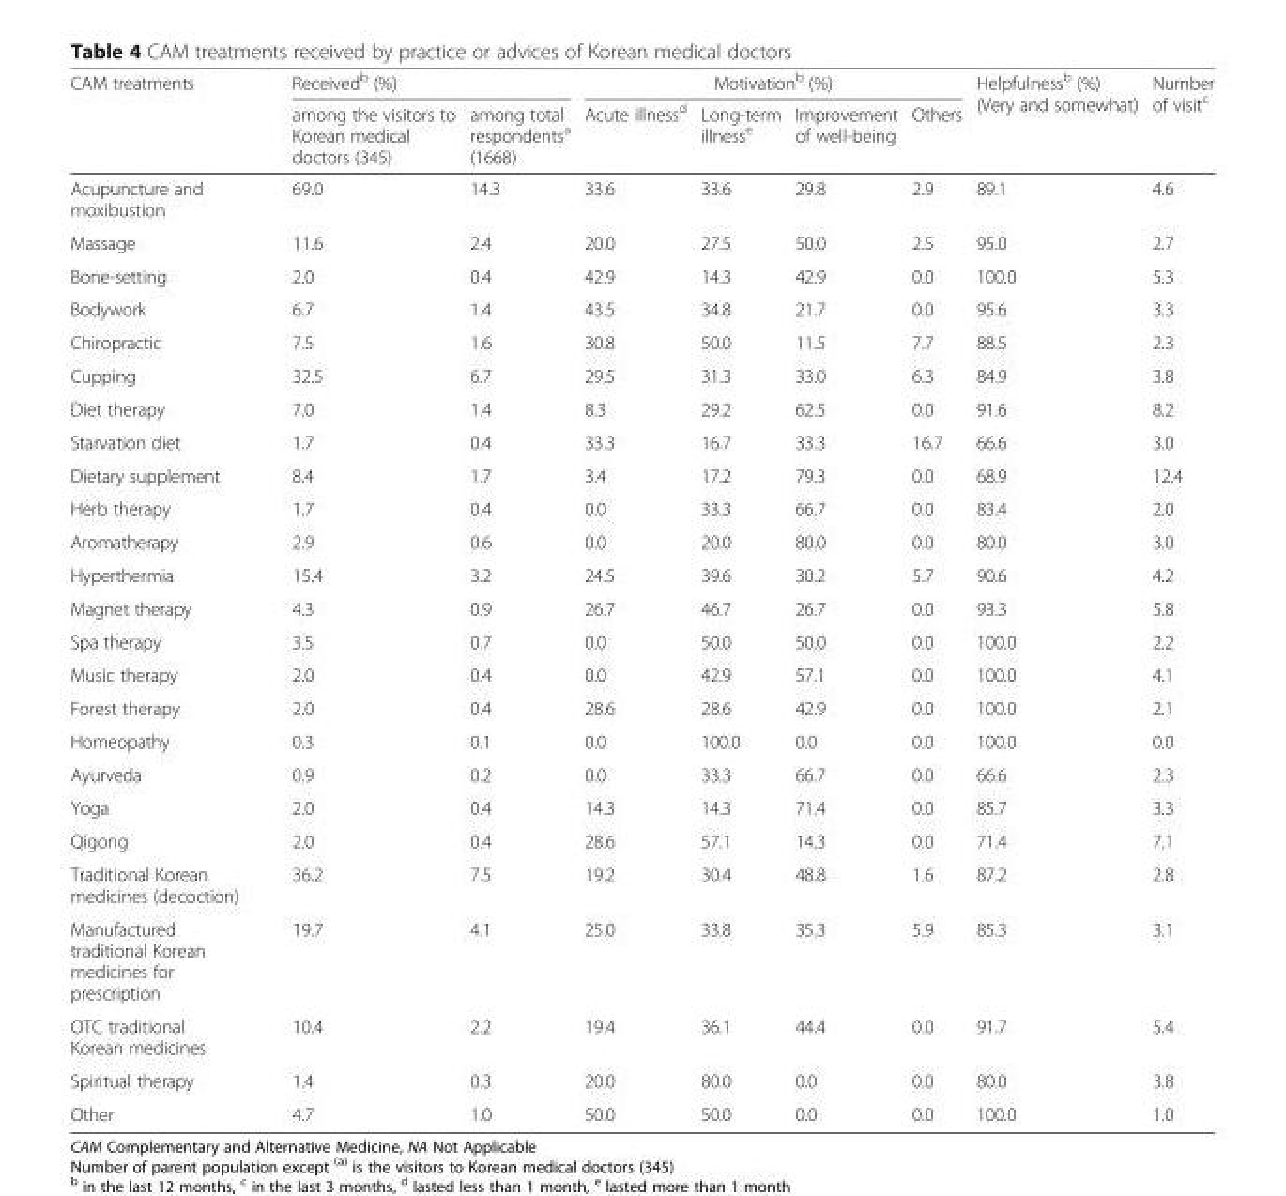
<table><thead><tr><td rowspan="2">CAM treatments</td><td colspan="2">Received<sup>b</sup> (%)</td><td colspan="4">Motivation<sup>b</sup> (%)</td><td rowspan="2">Helpfulness<sup>b</sup> (%) (Very and somewhat)</td><td rowspan="2">Number of visit<sup>c</sup></td></tr><tr><td>among the visitors to Korean medical doctors (345)</td><td>among total respondents<sup>a</sup> (1668)</td><td>Acute illness<sup>d</sup></td><td>Long-term illness<sup>e</sup></td><td>Improvement of well-being</td><td>Others</td></tr></thead><tbody><tr><td>Acupuncture and moxibustion</td><td>69.0</td><td>14.3</td><td>33.6</td><td>33.6</td><td>29.8</td><td>2.9</td><td>89.1</td><td>4.6</td></tr><tr><td>Massage</td><td>11.6</td><td>2.4</td><td>20.0</td><td>27.5</td><td>50.0</td><td>2.5</td><td>95.0</td><td>2.7</td></tr><tr><td>Bone-setting</td><td>2.0</td><td>0.4</td><td>42.9</td><td>14.3</td><td>42.9</td><td>0.0</td><td>100.0</td><td>5.3</td></tr><tr><td>Bodywork</td><td>6.7</td><td>1.4</td><td>43.5</td><td>34.8</td><td>21.7</td><td>0.0</td><td>95.6</td><td>3.3</td></tr><tr><td>Chiropractic</td><td>7.5</td><td>1.6</td><td>30.8</td><td>50.0</td><td>11.5</td><td>7.7</td><td>88.5</td><td>2.3</td></tr><tr><td>Cupping</td><td>32.5</td><td>6.7</td><td>29.5</td><td>31.3</td><td>33.0</td><td>6.3</td><td>84.9</td><td>3.8</td></tr><tr><td>Diet therapy</td><td>7.0</td><td>1.4</td><td>8.3</td><td>29.2</td><td>62.5</td><td>0.0</td><td>91.6</td><td>8.2</td></tr><tr><td>Starvation diet</td><td>1.7</td><td>0.4</td><td>33.3</td><td>16.7</td><td>33.3</td><td>16.7</td><td>66.6</td><td>3.0</td></tr><tr><td>Dietary supplement</td><td>8.4</td><td>1.7</td><td>3.4</td><td>17.2</td><td>79.3</td><td>0.0</td><td>68.9</td><td>12.4</td></tr><tr><td>Herb therapy</td><td>1.7</td><td>0.4</td><td>0.0</td><td>33.3</td><td>66.7</td><td>0.0</td><td>83.4</td><td>2.0</td></tr><tr><td>Aromatherapy</td><td>2.9</td><td>0.6</td><td>0.0</td><td>20.0</td><td>80.0</td><td>0.0</td><td>80.0</td><td>3.0</td></tr><tr><td>Hyperthermia</td><td>15.4</td><td>3.2</td><td>24.5</td><td>39.6</td><td>30.2</td><td>5.7</td><td>90.6</td><td>4.2</td></tr><tr><td>Magnet therapy</td><td>4.3</td><td>0.9</td><td>26.7</td><td>46.7</td><td>26.7</td><td>0.0</td><td>93.3</td><td>5.8</td></tr><tr><td>Spa therapy</td><td>3.5</td><td>0.7</td><td>0.0</td><td>50.0</td><td>50.0</td><td>0.0</td><td>100.0</td><td>2.2</td></tr><tr><td>Music therapy</td><td>2.0</td><td>0.4</td><td>0.0</td><td>42.9</td><td>57.1</td><td>0.0</td><td>100.0</td><td>4.1</td></tr><tr><td>Forest therapy</td><td>2.0</td><td>0.4</td><td>28.6</td><td>28.6</td><td>42.9</td><td>0.0</td><td>100.0</td><td>2.1</td></tr><tr><td>Homeopathy</td><td>0.3</td><td>0.1</td><td>0.0</td><td>100.0</td><td>0.0</td><td>0.0</td><td>100.0</td><td>0.0</td></tr><tr><td>Ayurveda</td><td>0.9</td><td>0.2</td><td>0.0</td><td>33.3</td><td>66.7</td><td>0.0</td><td>66.6</td><td>2.3</td></tr><tr><td>Yoga</td><td>2.0</td><td>0.4</td><td>14.3</td><td>14.3</td><td>71.4</td><td>0.0</td><td>85.7</td><td>3.3</td></tr><tr><td>Qigong</td><td>2.0</td><td>0.4</td><td>28.6</td><td>57.1</td><td>14.3</td><td>0.0</td><td>71.4</td><td>7.1</td></tr><tr><td>Traditional Korean medicines (decoction)</td><td>36.2</td><td>7.5</td><td>19.2</td><td>30.4</td><td>48.8</td><td>1.6</td><td>87.2</td><td>2.8</td></tr><tr><td>Manufactured traditional Korean medicines for prescription</td><td>19.7</td><td>4.1</td><td>25.0</td><td>33.8</td><td>35.3</td><td>5.9</td><td>85.3</td><td>3.1</td></tr><tr><td>OTC traditional Korean medicines</td><td>10.4</td><td>2.2</td><td>19.4</td><td>36.1</td><td>44.4</td><td>0.0</td><td>91.7</td><td>5.4</td></tr><tr><td>Spiritual therapy</td><td>1.4</td><td>0.3</td><td>20.0</td><td>80.0</td><td>0.0</td><td>0.0</td><td>80.0</td><td>3.8</td></tr><tr><td>Other</td><td>4.7</td><td>1.0</td><td>50.0</td><td>50.0</td><td>0.0</td><td>0.0</td><td>100.0</td><td>1.0</td></tr></tbody></table>